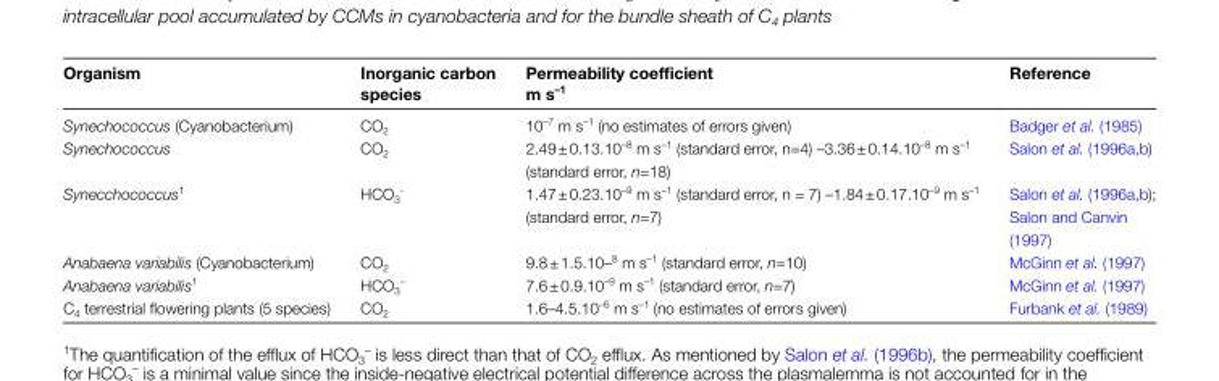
<table><thead><tr><td>Organism</td><td>Inorganic carbon species</td><td>Permeability coefficient m s<sup>–1</sup></td><td>Reference</td></tr></thead><tbody><tr><td>Synechococcus (Cyanobacterium)</td><td>CO<sub>2</sub></td><td>10<sup>–7</sup> m s<sup>–1</sup> (no estimates of errors given)</td><td>Badger et al. (1985)</td></tr><tr><td>Synechococcus</td><td>CO<sub>2</sub></td><td>2.49 ± 0.13.10<sup>–8</sup> m s<sup>–1</sup> (standard error, n=4) –3.36 ± 0.14.10<sup>–8</sup> m s<sup>–1</sup> (standard error, n=18)</td><td>Salon et al. (1996a,b)</td></tr><tr><td>Synecchococcus<sup>1</sup></td><td>HCO<sub>3</sub> <sup>-</sup></td><td>1.47 ± 0.23.10<sup>–9</sup> m s<sup>–1</sup> (standard error, n = 7) –1.84 ± 0.17.10<sup>–9</sup> m s<sup>–1</sup> (standard error, n=7)</td><td>Salon et al. (1996a,b); Salon and Canvin (1997)</td></tr><tr><td>Anabaena variabilis (Cyanobacterium)</td><td>CO<sub>2</sub></td><td>9.8 ± 1.5.10–<sup>8</sup> m s<sup>–1</sup> (standard error, n=10)</td><td>McGinn et al. (1997)</td></tr><tr><td>Anabaena variabilis<sup>1</sup></td><td>HCO<sub>3</sub> <sup>−</sup></td><td>7.6 ± 0.9.10<sup>–9</sup> m s<sup>–1</sup> (standard error, n=7)</td><td>McGinn et al. (1997)</td></tr><tr><td>C<sub>4</sub> terrestrial flowering plants (5 species)</td><td>CO<sub>2</sub></td><td>1.6–4.5.10<sup>–6</sup> m s<sup>–1</sup> (no estimates of errors given)</td><td>Furbank et al. (1989)</td></tr></tbody></table>